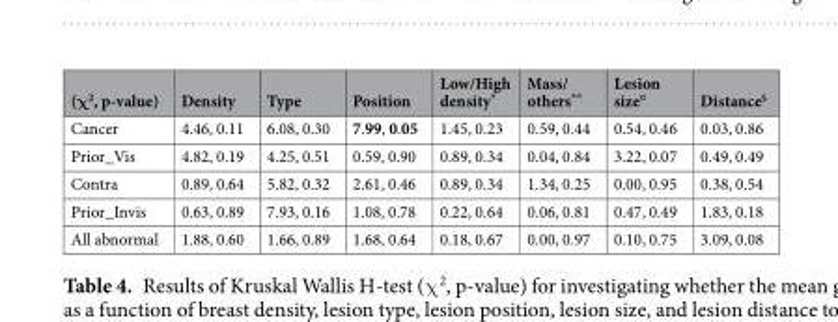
<table><thead><tr><td>(χ<sup>2</sup>, p-value)</td><td>Density</td><td>Type</td><td>Position</td><td>Low/High density*</td><td>Mass/ others**</td><td>Lesion size<sup>¤</sup></td><td>Distance<sup>§</sup></td></tr></thead><tbody><tr><td>Cancer</td><td>4.46, 0.11</td><td>6.08, 0.30</td><td>7.99, 0.05</td><td>1.45, 0.23</td><td>0.59, 0.44</td><td>0.54, 0.46</td><td>0.03, 0.86</td></tr><tr><td>Prior_Vis</td><td>4.82, 0.19</td><td>4.25, 0.51</td><td>0.59, 0.90</td><td>0.89, 0.34</td><td>0.04, 0.84</td><td>3.22, 0.07</td><td>0.49, 0.49</td></tr><tr><td>Contra</td><td>0.89, 0.64</td><td>5.82, 0.32</td><td>2.61, 0.46</td><td>0.89, 0.34</td><td>1.34, 0.25</td><td>0.00, 0.95</td><td>0.38, 0.54</td></tr><tr><td>Prior_Invis</td><td>0.63, 0.89</td><td>7.93, 0.16</td><td>1.08, 0.78</td><td>0.22, 0.64</td><td>0.06, 0.81</td><td>0.47, 0.49</td><td>1.83, 0.18</td></tr><tr><td>All abnormal</td><td>1.88, 0.60</td><td>1.66, 0.89</td><td>1.68, 0.64</td><td>0.18, 0.67</td><td>0.00, 0.97</td><td>0.10, 0.75</td><td>3.09, 0.08</td></tr></tbody></table>